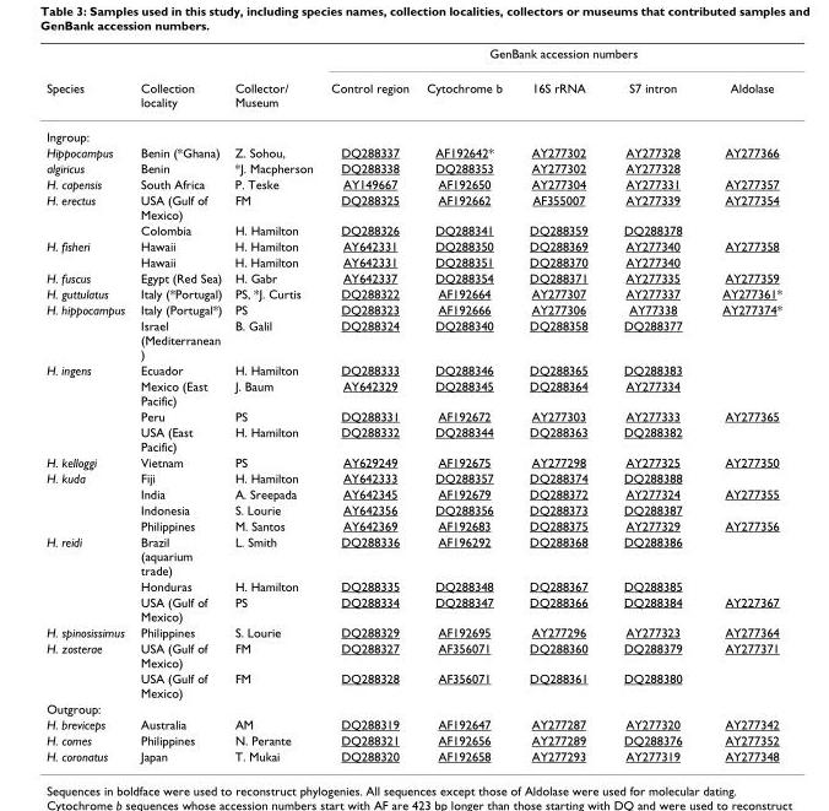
<table><thead><tr><td rowspan="2">Species</td><td rowspan="2">Collection locality</td><td rowspan="2">Collector/ Museum</td><td colspan="5">GenBank accession numbers</td></tr><tr><td>Control region</td><td>Cytochrome b</td><td>16S rRNA</td><td>S7 intron</td><td>Aldolase</td></tr></thead><tbody><tr><td colspan="8">Ingroup:</td></tr><tr><td>Hippocampus</td><td>Benin (*Ghana)</td><td>Z. Sohou,</td><td>DQ288337</td><td>AF192642*</td><td>AY277302</td><td>AY277328</td><td>AY277366</td></tr><tr><td>algiricus</td><td>Benin</td><td>*J. Macpherson</td><td>DQ288338</td><td>DQ288353</td><td>AY277302</td><td>AY277328</td><td></td></tr><tr><td>H. capensis</td><td>South Africa</td><td>P. Teske</td><td>AY149667</td><td>AF192650</td><td>AY277304</td><td>AY277331</td><td>AY277357</td></tr><tr><td rowspan="2">H. erectus</td><td>USA (Gulf of Mexico)</td><td>FM</td><td>DQ288325</td><td>AF192662</td><td>AF355007</td><td>AY277339</td><td>AY277354</td></tr><tr><td>Colombia</td><td>H. Hamilton</td><td>DQ288326</td><td>DQ288341</td><td>DQ288359</td><td>DQ288378</td><td></td></tr><tr><td rowspan="2">H. fisheri</td><td>Hawaii</td><td>H. Hamilton</td><td>AY642331</td><td>DQ288350</td><td>DQ288369</td><td>AY277340</td><td>AY277358</td></tr><tr><td>Hawaii</td><td>H. Hamilton</td><td>AY642331</td><td>DQ288351</td><td>DQ288370</td><td>AY277340</td><td></td></tr><tr><td>H. fuscus</td><td>Egypt (Red Sea)</td><td>H. Gabr</td><td>AY642337</td><td>DQ288354</td><td>DQ288371</td><td>AY277335</td><td>AY277359</td></tr><tr><td>H. guttulatus</td><td>Italy (*Portugal)</td><td>PS, *J. Curtis</td><td>DQ288322</td><td>AF192664</td><td>AY277307</td><td>AY277337</td><td>AY277361*</td></tr><tr><td rowspan="2">H. hippocampus</td><td>Italy (Portugal*)</td><td>PS</td><td>DQ288323</td><td>AF192666</td><td>AY277306</td><td>AY77338</td><td>AY277374*</td></tr><tr><td>Israel (Mediterranean )</td><td>B. Galil</td><td>DQ288324</td><td>DQ288340</td><td>DQ288358</td><td>DQ288377</td><td></td></tr><tr><td rowspan="4">H. ingens</td><td>Ecuador</td><td>H. Hamilton</td><td>DQ288333</td><td>DQ288346</td><td>DQ288365</td><td>DQ288383</td><td></td></tr><tr><td>Mexico (East Pacific)</td><td>J. Baum</td><td>AY642329</td><td>DQ288345</td><td>DQ288364</td><td>AY277334</td><td></td></tr><tr><td>Peru</td><td>PS</td><td>DQ288331</td><td>AF192672</td><td>AY277303</td><td>AY277333</td><td>AY277365</td></tr><tr><td>USA (East Pacific)</td><td>H. Hamilton</td><td>DQ288332</td><td>DQ288344</td><td>DQ288363</td><td>DQ288382</td><td></td></tr><tr><td>H. kelloggi</td><td>Vietnam</td><td>PS</td><td>AY629249</td><td>AF192675</td><td>AY277298</td><td>AY277325</td><td>AY277350</td></tr><tr><td rowspan="4">H. kuda</td><td>Fiji</td><td>H. Hamilton</td><td>AY642333</td><td>DQ288357</td><td>DQ288374</td><td>DQ288388</td><td></td></tr><tr><td>India</td><td>A. Sreepada</td><td>AY642345</td><td>AF192679</td><td>DQ288372</td><td>AY277324</td><td>AY277355</td></tr><tr><td>Indonesia</td><td>S. Lourie</td><td>AY642356</td><td>DQ288356</td><td>DQ288373</td><td>DQ288387</td><td></td></tr><tr><td>Philippines</td><td>M. Santos</td><td>AY642369</td><td>AF192683</td><td>DQ288375</td><td>AY277329</td><td>AY277356</td></tr><tr><td rowspan="3">H. reidi</td><td>Brazil (aquarium trade)</td><td>L. Smith</td><td>DQ288336</td><td>AF196292</td><td>DQ288368</td><td>DQ288386</td><td></td></tr><tr><td>Honduras</td><td>H. Hamilton</td><td>DQ288335</td><td>DQ288348</td><td>DQ288367</td><td>DQ288385</td><td></td></tr><tr><td>USA (Gulf of Mexico)</td><td>PS</td><td>DQ288334</td><td>DQ288347</td><td>DQ288366</td><td>DQ288384</td><td>AY227367</td></tr><tr><td>H. spinosissimus</td><td>Philippines</td><td>S. Lourie</td><td>DQ288329</td><td>AF192695</td><td>AY277296</td><td>AY277323</td><td>AY277364</td></tr><tr><td rowspan="2">H. zosterae</td><td>USA (Gulf of Mexico)</td><td>FM</td><td>DQ288327</td><td>AF356071</td><td>DQ288360</td><td>DQ288379</td><td>AY277371</td></tr><tr><td>USA (Gulf of Mexico)</td><td>FM</td><td>DQ288328</td><td>AF356071</td><td>DQ288361</td><td>DQ288380</td><td></td></tr><tr><td colspan="8">Outgroup:</td></tr><tr><td>H. breviceps</td><td>Australia</td><td>AM</td><td>DQ288319</td><td>AF192647</td><td>AY277287</td><td>AY277320</td><td>AY277342</td></tr><tr><td>H. comes</td><td>Philippines</td><td>N. Perante</td><td>DQ288321</td><td>AF192656</td><td>AY277289</td><td>DQ288376</td><td>AY277352</td></tr><tr><td>H. coronatus</td><td>Japan</td><td>T. Mukai</td><td>DQ288320</td><td>AF192658</td><td>AY277293</td><td>AY277319</td><td>AY277348</td></tr></tbody></table>